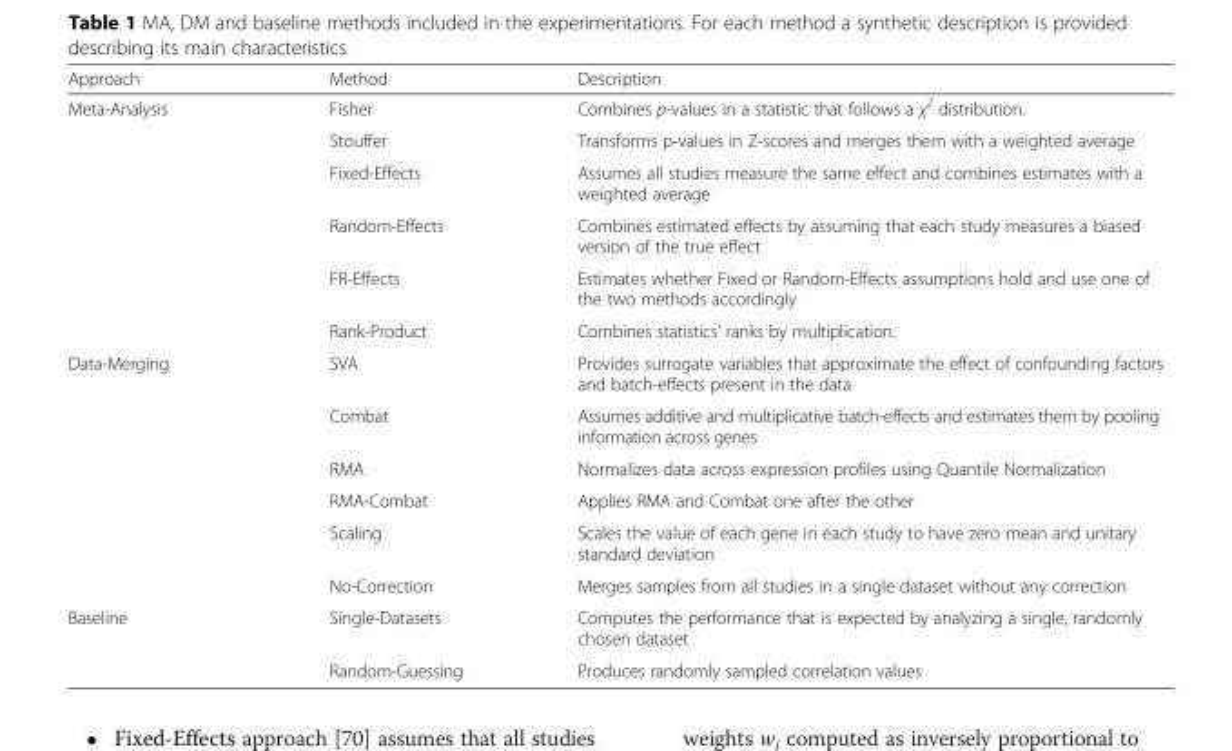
<table><thead><tr><td>Approach</td><td>Method</td><td>Description</td></tr></thead><tbody><tr><td rowspan="6">Meta-Analysis</td><td>Fisher</td><td>Combines p-values in a statistic that follows a χ<sup>2</sup> distribution.</td></tr><tr><td>Stouffer</td><td>Transforms p-values in Z-scores and merges them with a weighted average</td></tr><tr><td>Fixed-Effects</td><td>Assumes all studies measure the same effect and combines estimates with a weighted average</td></tr><tr><td>Random-Effects</td><td>Combines estimated effects by assuming that each study measures a biased version of the true effect</td></tr><tr><td>FR-Effects</td><td>Estimates whether Fixed or Random-Effects assumptions hold and use one of the two methods accordingly</td></tr><tr><td>Rank-Product</td><td>Combines statistics’ ranks by multiplication.</td></tr><tr><td rowspan="6">Data-Merging</td><td>SVA</td><td>Provides surrogate variables that approximate the effect of confounding factors and batch-effects present in the data</td></tr><tr><td>Combat</td><td>Assumes additive and multiplicative batch-effects and estimates them by pooling information across genes</td></tr><tr><td>RMA</td><td>Normalizes data across expression profiles using Quantile Normalization</td></tr><tr><td>RMA-Combat</td><td>Applies RMA and Combat one after the other</td></tr><tr><td>Scaling</td><td>Scales the value of each gene in each study to have zero mean and unitary standard deviation</td></tr><tr><td>No-Correction</td><td>Merges samples from all studies in a single dataset without any correction</td></tr><tr><td rowspan="2">Baseline</td><td>Single-Datasets</td><td>Computes the performance that is expected by analyzing a single, randomly chosen dataset</td></tr><tr><td>Random-Guessing</td><td>Produces randomly sampled correlation values</td></tr></tbody></table>